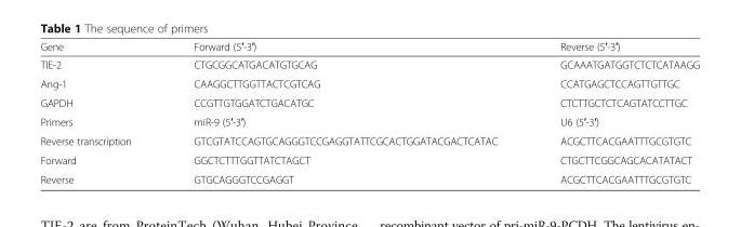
<table><thead><tr><td>Gene</td><td>Forward (5′-3′)</td><td>Reverse (5′-3′)</td></tr></thead><tbody><tr><td>TIE-2</td><td>CTGCGGCATGACATGTGCAG</td><td>GCAAATGATGGTCTCTCATAAGG</td></tr><tr><td>Ang-1</td><td>CAAGGCTTGGTTACTCGTCAG</td><td>CCATGAGCTCCAGTTGTTGC</td></tr><tr><td>GAPDH</td><td>CCGTTGTGGATCTGACATGC</td><td>CTCTTGCTCTCAGTATCCTTGC</td></tr><tr><td>Primers</td><td>miR-9 (5′-3′)</td><td>U6 (5′-3′)</td></tr><tr><td>Reverse transcription</td><td>GTCGTATCCAGTGCAGGGTCCGAGGTATTCGCACTGGATACGACTCATAC</td><td>ACGCTTCACGAATTTGCGTGTC</td></tr><tr><td>Forward</td><td>GGCTCTTTGGTTATCTAGCT</td><td>CTGCTTCGGCAGCACATATACT</td></tr><tr><td>Reverse</td><td>GTGCAGGGTCCGAGGT</td><td>ACGCTTCACGAATTTGCGTGTC</td></tr></tbody></table>